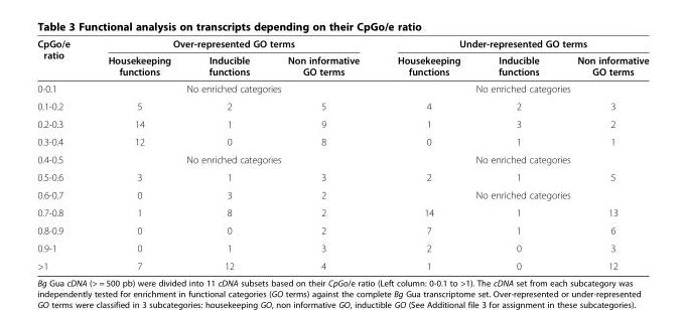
<table><thead><tr><td rowspan="2">CpGo/e ratio</td><td colspan="3">Over-represented GO terms</td><td colspan="3">Under-represented GO terms</td></tr><tr><td>Housekeeping functions</td><td>Inducible functions</td><td>Non informative GO terms</td><td>Housekeeping functions</td><td>Inducible functions</td><td>Non informative GO terms</td></tr></thead><tbody><tr><td>0-0.1</td><td colspan="3">No enriched categories</td><td colspan="3">No enriched categories</td></tr><tr><td>0.1-0.2</td><td>5</td><td>2</td><td>5</td><td>4</td><td>2</td><td>3</td></tr><tr><td>0.2-0.3</td><td>14</td><td>1</td><td>9</td><td>1</td><td>3</td><td>2</td></tr><tr><td>0.3-0.4</td><td>12</td><td>0</td><td>8</td><td>0</td><td>1</td><td>1</td></tr><tr><td>0.4-0.5</td><td colspan="3">No enriched categories</td><td colspan="3">No enriched categories</td></tr><tr><td>0.5-0.6</td><td>3</td><td>1</td><td>3</td><td>2</td><td>1</td><td>5</td></tr><tr><td>0.6-0.7</td><td>0</td><td>3</td><td>2</td><td colspan="3">No enriched categories</td></tr><tr><td>0.7-0.8</td><td>1</td><td>8</td><td>2</td><td>14</td><td>1</td><td>13</td></tr><tr><td>0.8-0.9</td><td>0</td><td>0</td><td>2</td><td>7</td><td>1</td><td>6</td></tr><tr><td>0.9-1</td><td>0</td><td>1</td><td>3</td><td>2</td><td>0</td><td>3</td></tr><tr><td>&gt;1</td><td>7</td><td>12</td><td>4</td><td>1</td><td>0</td><td>12</td></tr></tbody></table>